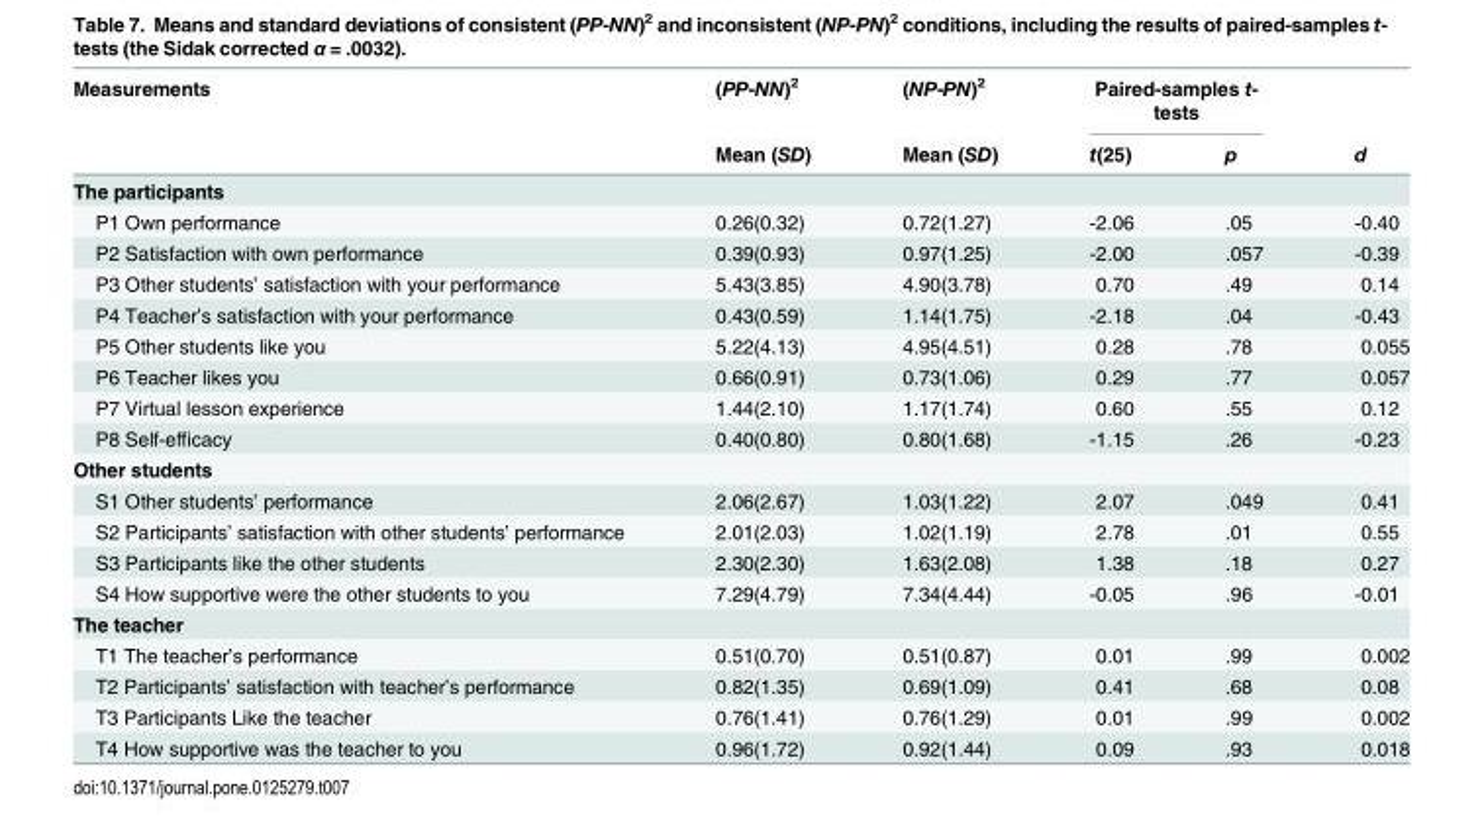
<table><thead><tr><td rowspan="2">Measurements</td><td rowspan="2">(PP-NN)<sup>2</sup> Mean (SD)</td><td rowspan="2">(NP-PN)<sup>2</sup> Mean (SD)</td><td colspan="2">Paired-samples t- tests</td><td rowspan="2">d</td></tr><tr><td>t(25)</td><td>p</td></tr></thead><tbody><tr><td colspan="6">The participants</td></tr><tr><td>P1 Own performance</td><td>0.26(0.32)</td><td>0.72(1.27)</td><td>-2.06</td><td>.05</td><td>-0.40</td></tr><tr><td>P2 Satisfaction with own performance</td><td>0.39(0.93)</td><td>0.97(1.25)</td><td>-2.00</td><td>.057</td><td>-0.39</td></tr><tr><td>P3 Other students’ satisfaction with your performance</td><td>5.43(3.85)</td><td>4.90(3.78)</td><td>0.70</td><td>.49</td><td>0.14</td></tr><tr><td>P4 Teacher’s satisfaction with your performance</td><td>0.43(0.59)</td><td>1.14(1.75)</td><td>-2.18</td><td>.04</td><td>-0.43</td></tr><tr><td>P5 Other students like you</td><td>5.22(4.13)</td><td>4.95(4.51)</td><td>0.28</td><td>.78</td><td>0.055</td></tr><tr><td>P6 Teacher likes you</td><td>0.66(0.91)</td><td>0.73(1.06)</td><td>0.29</td><td>.77</td><td>0.057</td></tr><tr><td>P7 Virtual lesson experience</td><td>1.44(2.10)</td><td>1.17(1.74)</td><td>0.60</td><td>.55</td><td>0.12</td></tr><tr><td>P8 Self-efficacy</td><td>0.40(0.80)</td><td>0.80(1.68)</td><td>-1.15</td><td>.26</td><td>-0.23</td></tr><tr><td colspan="6">Other students</td></tr><tr><td>S1 Other students’ performance</td><td>2.06(2.67)</td><td>1.03(1.22)</td><td>2.07</td><td>.049</td><td>0.41</td></tr><tr><td>S2 Participants’ satisfaction with other students’ performance</td><td>2.01(2.03)</td><td>1.02(1.19)</td><td>2.78</td><td>.01</td><td>0.55</td></tr><tr><td>S3 Participants like the other students</td><td>2.30(2.30)</td><td>1.63(2.08)</td><td>1.38</td><td>.18</td><td>0.27</td></tr><tr><td>S4 How supportive were the other students to you</td><td>7.29(4.79)</td><td>7.34(4.44)</td><td>-0.05</td><td>.96</td><td>-0.01</td></tr><tr><td colspan="6">The teacher</td></tr><tr><td>T1 The teacher’s performance</td><td>0.51(0.70)</td><td>0.51(0.87)</td><td>0.01</td><td>.99</td><td>0.002</td></tr><tr><td>T2 Participants’ satisfaction with teacher’s performance</td><td>0.82(1.35)</td><td>0.69(1.09)</td><td>0.41</td><td>.68</td><td>0.08</td></tr><tr><td>T3 Participants Like the teacher</td><td>0.76(1.41)</td><td>0.76(1.29)</td><td>0.01</td><td>.99</td><td>0.002</td></tr><tr><td>T4 How supportive was the teacher to you</td><td>0.96(1.72)</td><td>0.92(1.44)</td><td>0.09</td><td>.93</td><td>0.018</td></tr></tbody></table>